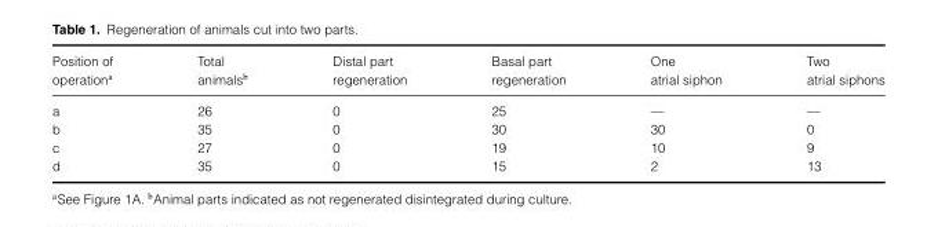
<table><thead><tr><td rowspan="2">Position of operationa</td><td rowspan="2">Total animalsb</td><td rowspan="2">Distal part regeneration</td><td rowspan="2">Basal part regeneration</td><td rowspan="2">One atrial siphon</td><td rowspan="2">Two atrial siphons</td></tr><tr></tr></thead><tbody><tr><td>a</td><td>26</td><td>0</td><td>25</td><td>—</td><td>—</td></tr><tr><td>b</td><td>35</td><td>0</td><td>30</td><td>30</td><td>0</td></tr><tr><td>c</td><td>27</td><td>0</td><td>19</td><td>10</td><td>9</td></tr><tr><td>d</td><td>35</td><td>0</td><td>15</td><td>2</td><td>13</td></tr></tbody></table>